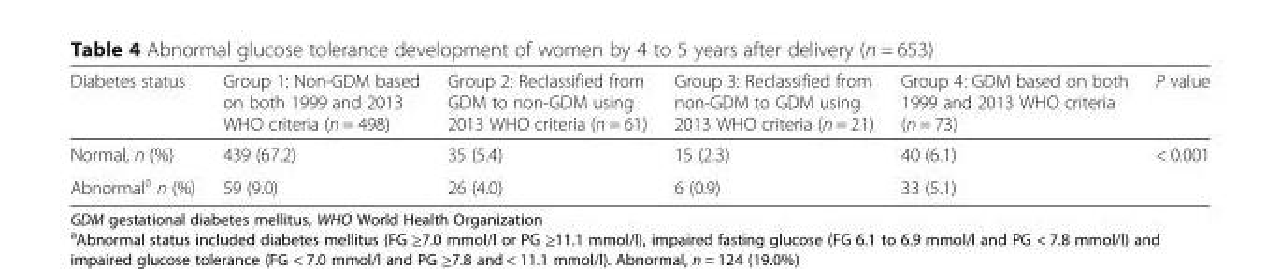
<table><thead><tr><td>Diabetes status</td><td>Group 1: Non-GDM based on both 1999 and 2013 WHO criteria (n = 498)</td><td>Group 2: Reclassified from GDM to non-GDM using 2013 WHO criteria (n = 61)</td><td>Group 3: Reclassified from non-GDM to GDM using 2013 WHO criteria (n = 21)</td><td>Group 4: GDM based on both 1999 and 2013 WHO criteria (n = 73)</td><td>P value</td></tr></thead><tbody><tr><td>Normal, n (%)</td><td>439 (67.2)</td><td>35 (5.4)</td><td>15 (2.3)</td><td>40 (6.1)</td><td>&lt; 0.001</td></tr><tr><td>Abnormal<sup>a</sup> n (%)</td><td>59 (9.0)</td><td>26 (4.0)</td><td>6 (0.9)</td><td>33 (5.1)</td><td></td></tr></tbody></table>